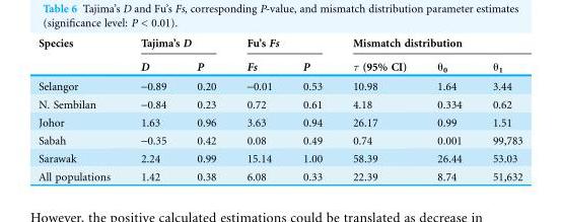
<table><thead><tr><td rowspan="2">Species</td><td colspan="2">Tajima’s D</td><td colspan="2">Fu’s Fs</td><td colspan="3">Mismatch distribution</td></tr><tr><td>D</td><td>P</td><td>Fs</td><td>P</td><td>τ (95% CI)</td><td>θ<sub>0</sub></td><td>θ<sub>1</sub></td></tr></thead><tbody><tr><td>Selangor</td><td>-0.89</td><td>0.20</td><td>-0.01</td><td>0.53</td><td>10.98</td><td>1.64</td><td>3.44</td></tr><tr><td>N. Sembilan</td><td>-0.84</td><td>0.23</td><td>0.72</td><td>0.61</td><td>4.18</td><td>0.334</td><td>0.62</td></tr><tr><td>Johor</td><td>1.63</td><td>0.96</td><td>3.63</td><td>0.94</td><td>26.17</td><td>0.99</td><td>1.51</td></tr><tr><td>Sabah</td><td>-0.35</td><td>0.42</td><td>0.08</td><td>0.49</td><td>0.74</td><td>0.001</td><td>99,783</td></tr><tr><td>Sarawak</td><td>2.24</td><td>0.99</td><td>15.14</td><td>1.00</td><td>58.39</td><td>26.44</td><td>53.03</td></tr><tr><td>All populations</td><td>1.42</td><td>0.38</td><td>6.08</td><td>0.33</td><td>22.39</td><td>8.74</td><td>51,632</td></tr></tbody></table>